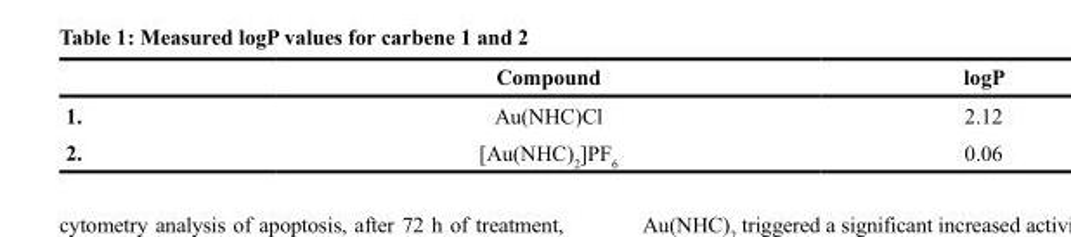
<table><thead><tr><td></td><td>Compound</td><td>logP</td></tr></thead><tbody><tr><td>1.</td><td>Au(NHC)Cl</td><td>2.12</td></tr><tr><td>2.</td><td>[Au(NHC)<sub>2</sub>]PF<sub>6</sub></td><td>0.06</td></tr></tbody></table>